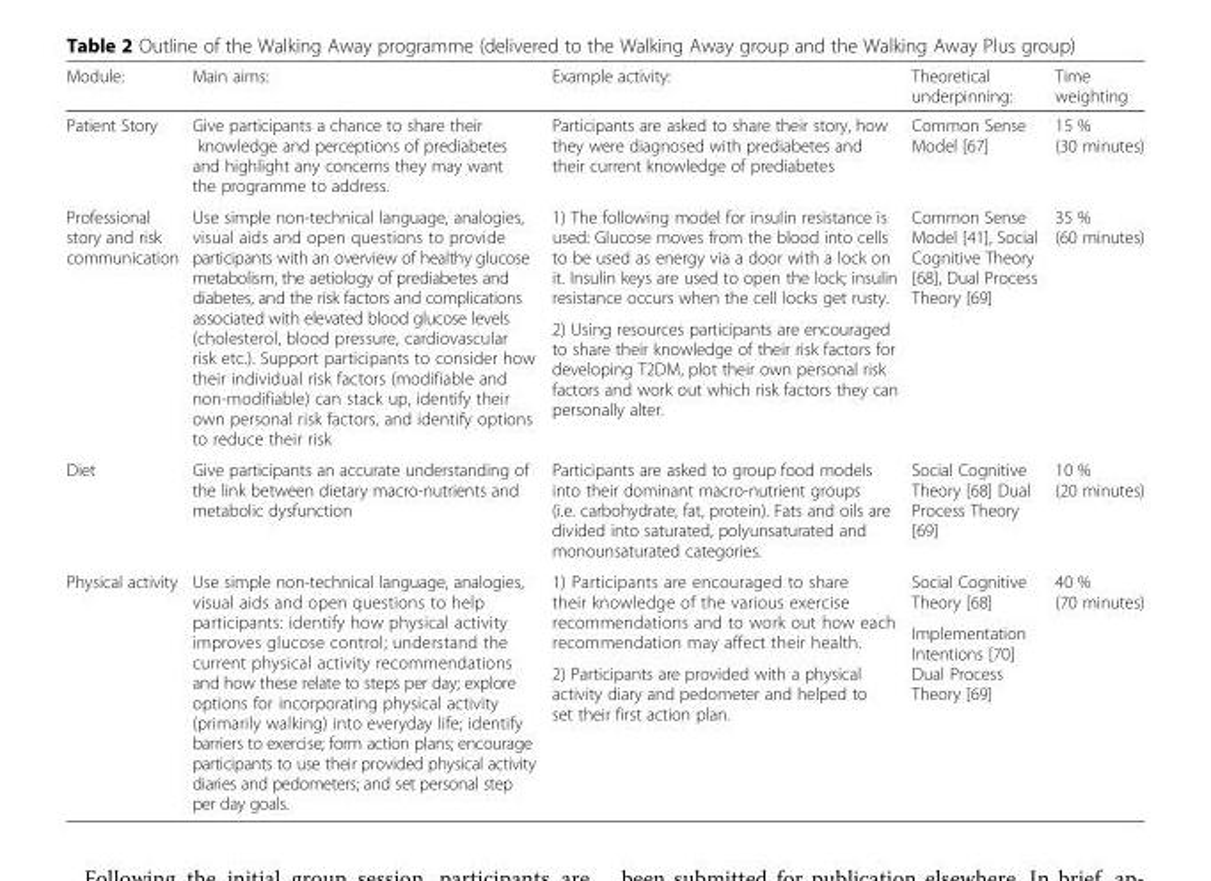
<table><thead><tr><td>Module:</td><td>Main aims:</td><td>Example activity:</td><td>Theoretical underpinning:</td><td>Time weighting</td></tr></thead><tbody><tr><td>Patient Story</td><td>Give participants a chance to share their knowledge and perceptions of prediabetes and highlight any concerns they may want the programme to address.</td><td>Participants are asked to share their story, how they were diagnosed with prediabetes and their current knowledge of prediabetes</td><td>Common Sense Model [67]</td><td>15 % (30 minutes)</td></tr><tr><td rowspan="2">Professional story and risk communication</td><td rowspan="2">Use simple non-technical language, analogies, visual aids and open questions to provide participants with an overview of healthy glucose metabolism, the aetiology of prediabetes and diabetes, and the risk factors and complications associated with elevated blood glucose levels (cholesterol, blood pressure, cardiovascular risk etc.). Support participants to consider how their individual risk factors (modifiable and non-modifiable) can stack up, identify their own personal risk factors, and identify options to reduce their risk</td><td>1) The following model for insulin resistance is used: Glucose moves from the blood into cells to be used as energy via a door with a lock on it. Insulin keys are used to open the lock; insulin resistance occurs when the cell locks get rusty.</td><td rowspan="2">Common Sense Model [41], Social Cognitive Theory [68], Dual Process Theory [69]</td><td rowspan="2">35 % (60 minutes)</td></tr><tr><td>2) Using resources participants are encouraged to share their knowledge of their risk factors for developing T2DM, plot their own personal risk factors and work out which risk factors they can personally alter.</td></tr><tr><td>Diet</td><td>Give participants an accurate understanding of the link between dietary macro-nutrients and metabolic dysfunction</td><td>Participants are asked to group food models into their dominant macro-nutrient groups (i.e. carbohydrate, fat, protein). Fats and oils are divided into saturated, polyunsaturated and monounsaturated categories.</td><td>Social Cognitive Theory [68] Dual Process Theory [69]</td><td>10 % (20 minutes)</td></tr><tr><td rowspan="3">Physical activity</td><td rowspan="3">Use simple non-technical language, analogies, visual aids and open questions to help participants: identify how physical activity improves glucose control; understand the current physical activity recommendations and how these relate to steps per day; explore options for incorporating physical activity (primarily walking) into everyday life; identify barriers to exercise; form action plans; encourage participants to use their provided physical activity diaries and pedometers; and set personal step per day goals.</td><td rowspan="2">1) Participants are encouraged to share their knowledge of the various exercise recommendations and to work out how each recommendation may affect their health.</td><td>Social Cognitive Theory [68]</td><td rowspan="3">40 % (70 minutes)</td></tr><tr><td rowspan="2">Implementation Intentions [70] Dual Process Theory [69]</td></tr><tr><td>2) Participants are provided with a physical activity diary and pedometer and helped to set their first action plan.</td></tr></tbody></table>